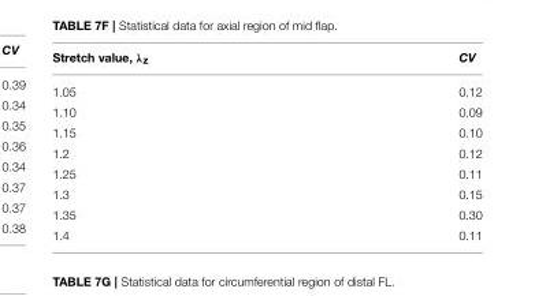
<table><thead><tr><td>Stretch value, λ<sub>z</sub></td><td>CV</td></tr></thead><tbody><tr><td>1.05</td><td>0.12</td></tr><tr><td>1.10</td><td>0.09</td></tr><tr><td>1.15</td><td>0.10</td></tr><tr><td>1.2</td><td>0.12</td></tr><tr><td>1.25</td><td>0.11</td></tr><tr><td>1.3</td><td>0.15</td></tr><tr><td>1.35</td><td>0.30</td></tr><tr><td>1.4</td><td>0.11</td></tr></tbody></table>